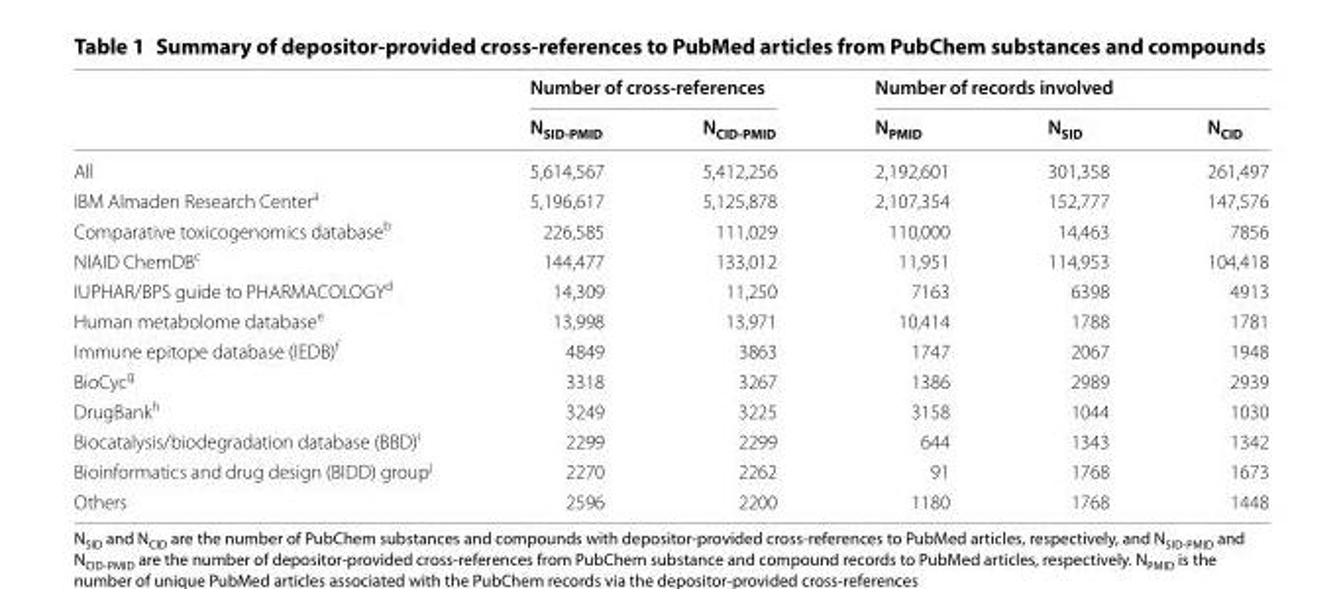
<table><thead><tr><td rowspan="2"></td><td colspan="2">Number of cross‑references</td><td colspan="3">Number of records involved</td></tr><tr><td>N<sub>SID-PMID</sub></td><td>N<sub>CID-PMID</sub></td><td>N<sub>PMID</sub></td><td>N<sub>SID</sub></td><td>N<sub>CID</sub></td></tr></thead><tbody><tr><td>All</td><td>5,614,567</td><td>5,412,256</td><td>2,192,601</td><td>301,358</td><td>261,497</td></tr><tr><td>IBM Almaden Research Center<sup>a</sup></td><td>5,196,617</td><td>5,125,878</td><td>2,107,354</td><td>152,777</td><td>147,576</td></tr><tr><td>Comparative toxicogenomics database<sup>b</sup></td><td>226,585</td><td>111,029</td><td>110,000</td><td>14,463</td><td>7856</td></tr><tr><td>NIAID ChemDB<sup>c</sup></td><td>144,477</td><td>133,012</td><td>11,951</td><td>114,953</td><td>104,418</td></tr><tr><td>IUPHAR/BPS guide to PHARMACOLOGY<sup>d</sup></td><td>14,309</td><td>11,250</td><td>7163</td><td>6398</td><td>4913</td></tr><tr><td>Human metabolome database<sup>e</sup></td><td>13,998</td><td>13,971</td><td>10,414</td><td>1788</td><td>1781</td></tr><tr><td>Immune epitope database (IEDB)<sup>f</sup></td><td>4849</td><td>3863</td><td>1747</td><td>2067</td><td>1948</td></tr><tr><td>BioCyc<sup>g</sup></td><td>3318</td><td>3267</td><td>1386</td><td>2989</td><td>2939</td></tr><tr><td>DrugBank<sup>h</sup></td><td>3249</td><td>3225</td><td>3158</td><td>1044</td><td>1030</td></tr><tr><td>Biocatalysis/biodegradation database (BBD)<sup>i</sup></td><td>2299</td><td>2299</td><td>644</td><td>1343</td><td>1342</td></tr><tr><td>Bioinformatics and drug design (BIDD) group<sup>j</sup></td><td>2270</td><td>2262</td><td>91</td><td>1768</td><td>1673</td></tr><tr><td>Others</td><td>2596</td><td>2200</td><td>1180</td><td>1768</td><td>1448</td></tr></tbody></table>